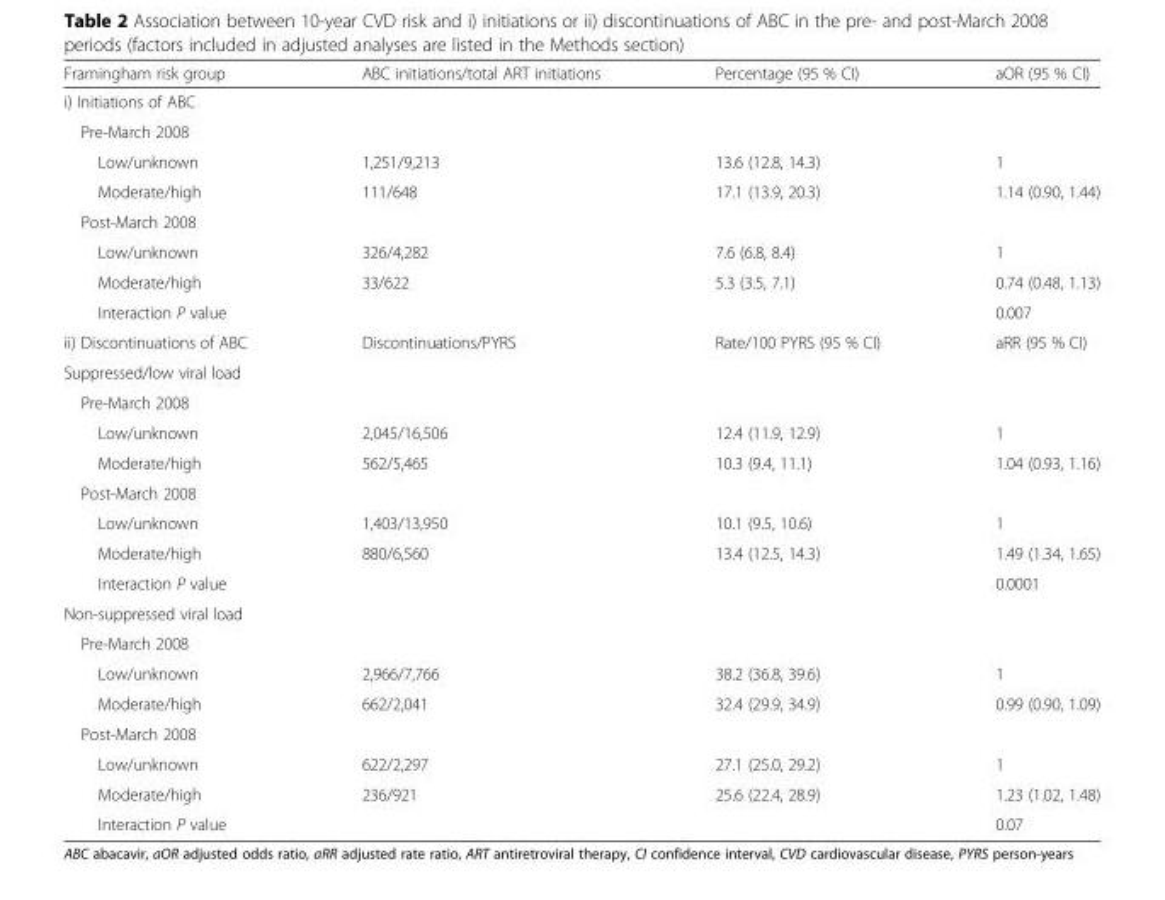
<table><thead><tr><td>Framingham risk group</td><td>ABC initiations/total ART initiations</td><td>Percentage (95 % CI)</td><td>aOR (95 % CI)</td></tr></thead><tbody><tr><td colspan="4">i) Initiations of ABC</td></tr><tr><td colspan="4">Pre-March 2008</td></tr><tr><td>Low/unknown</td><td>1,251/9,213</td><td>13.6 (12.8, 14.3)</td><td>1</td></tr><tr><td>Moderate/high</td><td>111/648</td><td>17.1 (13.9, 20.3)</td><td>1.14 (0.90, 1.44)</td></tr><tr><td colspan="4">Post-March 2008</td></tr><tr><td>Low/unknown</td><td>326/4,282</td><td>7.6 (6.8, 8.4)</td><td>1</td></tr><tr><td>Moderate/high</td><td>33/622</td><td>5.3 (3.5, 7.1)</td><td>0.74 (0.48, 1.13)</td></tr><tr><td>Interaction P value</td><td></td><td></td><td>0.007</td></tr><tr><td>ii) Discontinuations of ABC</td><td>Discontinuations/PYRS</td><td>Rate/100 PYRS (95 % CI)</td><td>aRR (95 % CI)</td></tr><tr><td colspan="4">Suppressed/low viral load</td></tr><tr><td colspan="4">Pre-March 2008</td></tr><tr><td>Low/unknown</td><td>2,045/16,506</td><td>12.4 (11.9, 12.9)</td><td>1</td></tr><tr><td>Moderate/high</td><td>562/5,465</td><td>10.3 (9.4, 11.1)</td><td>1.04 (0.93, 1.16)</td></tr><tr><td colspan="4">Post-March 2008</td></tr><tr><td>Low/unknown</td><td>1,403/13,950</td><td>10.1 (9.5, 10.6)</td><td>1</td></tr><tr><td>Moderate/high</td><td>880/6,560</td><td>13.4 (12.5, 14.3)</td><td>1.49 (1.34, 1.65)</td></tr><tr><td>Interaction P value</td><td></td><td></td><td>0.0001</td></tr><tr><td colspan="4">Non-suppressed viral load</td></tr><tr><td colspan="4">Pre-March 2008</td></tr><tr><td>Low/unknown</td><td>2,966/7,766</td><td>38.2 (36.8, 39.6)</td><td>1</td></tr><tr><td>Moderate/high</td><td>662/2,041</td><td>32.4 (29.9, 34.9)</td><td>0.99 (0.90, 1.09)</td></tr><tr><td colspan="4">Post-March 2008</td></tr><tr><td>Low/unknown</td><td>622/2,297</td><td>27.1 (25.0, 29.2)</td><td>1</td></tr><tr><td>Moderate/high</td><td>236/921</td><td>25.6 (22.4, 28.9)</td><td>1.23 (1.02, 1.48)</td></tr><tr><td>Interaction P value</td><td></td><td></td><td>0.07</td></tr></tbody></table>